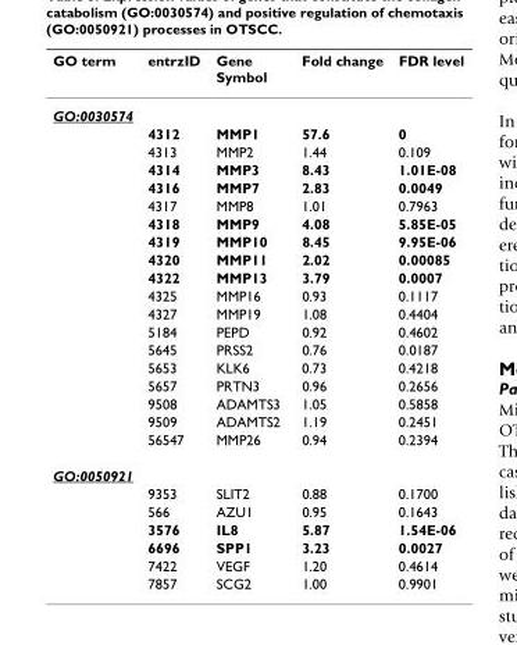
<table><thead><tr><td>GO term</td><td>entrzID</td><td>Gene Symbol</td><td>Fold change</td><td>FDR level</td></tr></thead><tbody><tr><td colspan="5">GO:0030574</td></tr><tr><td></td><td>4312</td><td>MMP1</td><td>57.6</td><td>0</td></tr><tr><td></td><td>4313</td><td>MMP2</td><td>1.44</td><td>0.109</td></tr><tr><td></td><td>4314</td><td>MMP3</td><td>8.43</td><td>1.01E-08</td></tr><tr><td></td><td>4316</td><td>MMP7</td><td>2.83</td><td>0.0049</td></tr><tr><td></td><td>4317</td><td>MMP8</td><td>1.01</td><td>0.7963</td></tr><tr><td></td><td>4318</td><td>MMP9</td><td>4.08</td><td>5.85E-05</td></tr><tr><td></td><td>4319</td><td>MMP10</td><td>8.45</td><td>9.95E-06</td></tr><tr><td></td><td>4320</td><td>MMP11</td><td>2.02</td><td>0.00085</td></tr><tr><td></td><td>4322</td><td>MMP13</td><td>3.79</td><td>0.0007</td></tr><tr><td></td><td>4325</td><td>MMP16</td><td>0.93</td><td>0.1117</td></tr><tr><td></td><td>4327</td><td>MMP19</td><td>1.08</td><td>0.4404</td></tr><tr><td></td><td>5184</td><td>PEPD</td><td>0.92</td><td>0.4602</td></tr><tr><td></td><td>5645</td><td>PRSS2</td><td>0.76</td><td>0.0187</td></tr><tr><td></td><td>5653</td><td>KLK6</td><td>0.73</td><td>0.4218</td></tr><tr><td></td><td>5657</td><td>PRTN3</td><td>0.96</td><td>0.2656</td></tr><tr><td></td><td>9508</td><td>ADAMTS3</td><td>1.05</td><td>0.5858</td></tr><tr><td></td><td>9509</td><td>ADAMTS2</td><td>1.19</td><td>0.2451</td></tr><tr><td></td><td>56547</td><td>MMP26</td><td>0.94</td><td>0.2394</td></tr><tr><td colspan="5">GO:0050921</td></tr><tr><td></td><td>9353</td><td>SLIT2</td><td>0.88</td><td>0.1700</td></tr><tr><td></td><td>566</td><td>AZU1</td><td>0.95</td><td>0.1643</td></tr><tr><td></td><td>3576</td><td>IL8</td><td>5.87</td><td>1.54E-06</td></tr><tr><td></td><td>6696</td><td>SPP1</td><td>3.23</td><td>0.0027</td></tr><tr><td></td><td>7422</td><td>VEGF</td><td>1.20</td><td>0.4614</td></tr><tr><td></td><td>7857</td><td>SCG2</td><td>1.00</td><td>0.9901</td></tr></tbody></table>